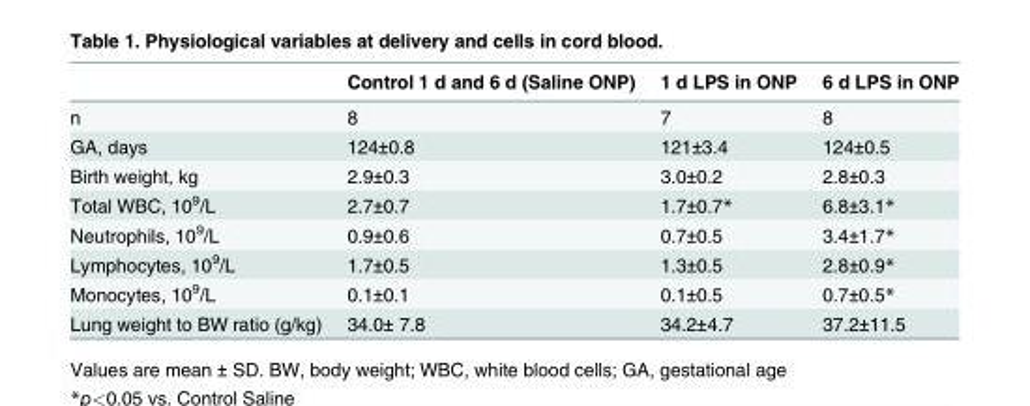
<table><thead><tr><td></td><td>Control 1 d and 6 d (Saline ONP)</td><td>1 d LPS in ONP</td><td>6 d LPS in ONP</td></tr></thead><tbody><tr><td>n</td><td>8</td><td>7</td><td>8</td></tr><tr><td>GA, days</td><td>124±0.8</td><td>121±3.4</td><td>124±0.5</td></tr><tr><td>Birth weight, kg</td><td>2.9±0.3</td><td>3.0±0.2</td><td>2.8±0.3</td></tr><tr><td>Total WBC, 10<sup>9</sup>/L</td><td>2.7±0.7</td><td>1.7±0.7*</td><td>6.8±3.1*</td></tr><tr><td>Neutrophils, 10<sup>9</sup>/L</td><td>0.9±0.6</td><td>0.7±0.5</td><td>3.4±1.7*</td></tr><tr><td>Lymphocytes, 10<sup>9</sup>/L</td><td>1.7±0.5</td><td>1.3±0.5</td><td>2.8±0.9*</td></tr><tr><td>Monocytes, 10<sup>9</sup>/L</td><td>0.1±0.1</td><td>0.1±0.5</td><td>0.7±0.5*</td></tr><tr><td>Lung weight to BW ratio (g/kg)</td><td>34.0± 7.8</td><td>34.2±4.7</td><td>37.2±11.5</td></tr></tbody></table>